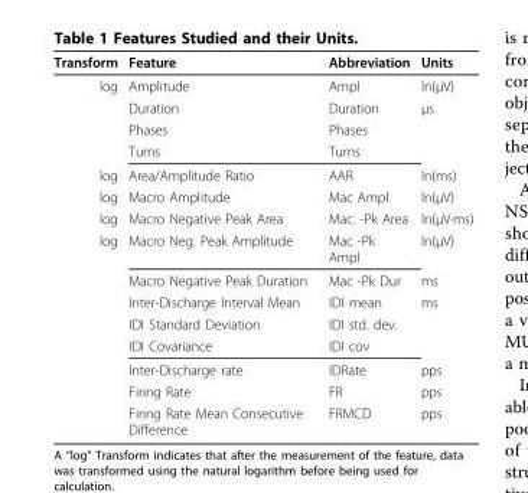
<table><thead><tr><td>Transform</td><td>Feature</td><td>Abbreviation</td><td>Units</td></tr></thead><tbody><tr><td rowspan="4">log</td><td>Amplitude</td><td>Ampl</td><td>ln(μV)</td></tr><tr><td>Duration</td><td>Duration</td><td>μs</td></tr><tr><td>Phases</td><td>Phases</td><td></td></tr><tr><td>Turns</td><td>Turns</td><td></td></tr><tr><td>log</td><td>Area/Amplitude Ratio</td><td>AAR</td><td>ln(ms)</td></tr><tr><td>log</td><td>Macro Amplitude</td><td>Mac Ampl</td><td>ln(μV)</td></tr><tr><td>log</td><td>Macro Negative Peak Area</td><td>Mac. -Pk Area</td><td>ln(μV·ms)</td></tr><tr><td rowspan="8">log</td><td>Macro Neg. Peak Amplitude</td><td>Mac -Pk Ampl</td><td>ln(μV)</td></tr><tr><td>Macro Negative Peak Duration</td><td>Mac -Pk Dur</td><td>ms</td></tr><tr><td>Inter-Discharge Interval Mean</td><td>IDI mean</td><td>ms</td></tr><tr><td>IDI Standard Deviation</td><td>IDI std. dev.</td><td></td></tr><tr><td>IDI Covariance</td><td>IDI cov</td><td></td></tr><tr><td>Inter-Discharge rate</td><td>IDRate</td><td>pps</td></tr><tr><td>Firing Rate</td><td>FR</td><td>pps</td></tr><tr><td>Firing Rate Mean Consecutive Difference</td><td>FRMCD</td><td>pps</td></tr></tbody></table>